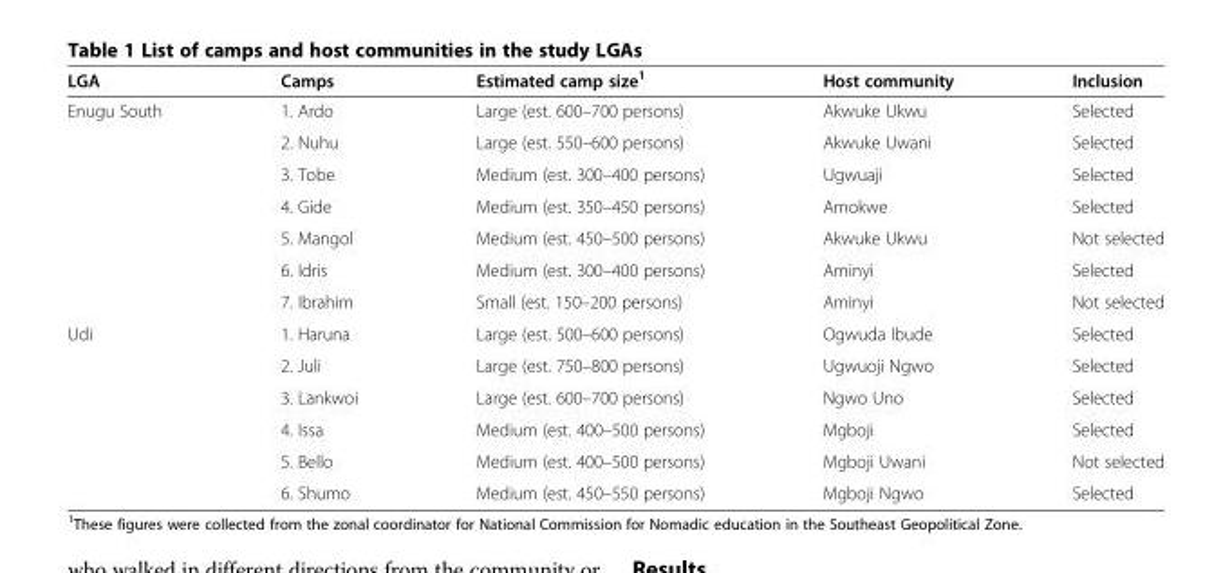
<table><thead><tr><td>LGA</td><td>Camps</td><td>Estimated camp size<sup>1</sup></td><td>Host community</td><td>Inclusion</td></tr></thead><tbody><tr><td rowspan="7">Enugu South</td><td>1. Ardo</td><td>Large (est. 600–700 persons)</td><td>Akwuke Ukwu</td><td>Selected</td></tr><tr><td>2. Nuhu</td><td>Large (est. 550–600 persons)</td><td>Akwuke Uwani</td><td>Selected</td></tr><tr><td>3. Tobe</td><td>Medium (est. 300–400 persons)</td><td>Ugwuaji</td><td>Selected</td></tr><tr><td>4. Gide</td><td>Medium (est. 350–450 persons)</td><td>Amokwe</td><td>Selected</td></tr><tr><td>5. Mangol</td><td>Medium (est. 450–500 persons)</td><td>Akwuke Ukwu</td><td>Not selected</td></tr><tr><td>6. Idris</td><td>Medium (est. 300–400 persons)</td><td>Aminyi</td><td>Selected</td></tr><tr><td>7. Ibrahim</td><td>Small (est. 150–200 persons)</td><td>Aminyi</td><td>Not selected</td></tr><tr><td rowspan="6">Udi</td><td>1. Haruna</td><td>Large (est. 500–600 persons)</td><td>Ogwuda Ibude</td><td>Selected</td></tr><tr><td>2. Juli</td><td>Large (est. 750–800 persons)</td><td>Ugwuoji Ngwo</td><td>Selected</td></tr><tr><td>3. Lankwoi</td><td>Large (est. 600–700 persons)</td><td>Ngwo Uno</td><td>Selected</td></tr><tr><td>4. Issa</td><td>Medium (est. 400–500 persons)</td><td>Mgboji</td><td>Selected</td></tr><tr><td>5. Bello</td><td>Medium (est. 400–500 persons)</td><td>Mgboji Uwani</td><td>Not selected</td></tr><tr><td>6. Shumo</td><td>Medium (est. 450–550 persons)</td><td>Mgboji Ngwo</td><td>Selected</td></tr></tbody></table>